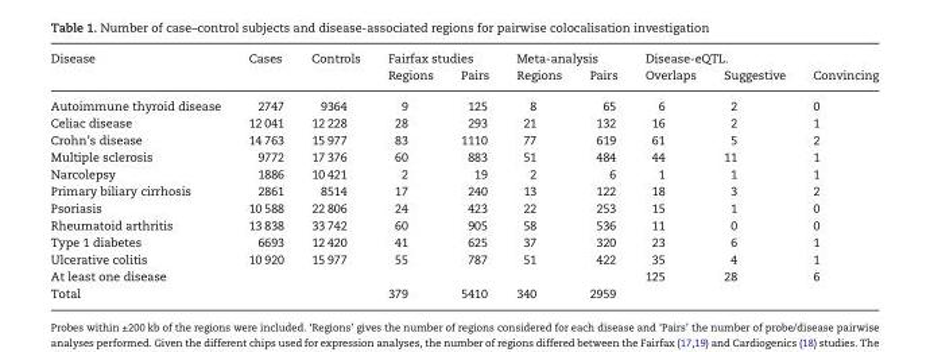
<table><thead><tr><td rowspan="2">Disease</td><td rowspan="2">Cases</td><td rowspan="2">Controls</td><td colspan="2">Fairfax studies</td><td colspan="2">Meta-analysis</td><td colspan="3">Disease-eQTL.</td></tr><tr><td>Regions</td><td>Pairs</td><td>Regions</td><td>Pairs</td><td>Overlaps</td><td>Suggestive</td><td>Convincing</td></tr></thead><tbody><tr><td>Autoimmune thyroid disease</td><td>2747</td><td>9364</td><td>9</td><td>125</td><td>8</td><td>65</td><td>6</td><td>2</td><td>0</td></tr><tr><td>Celiac disease</td><td>12 041</td><td>12 228</td><td>28</td><td>293</td><td>21</td><td>132</td><td>16</td><td>2</td><td>1</td></tr><tr><td>Crohn’s disease</td><td>14 763</td><td>15 977</td><td>83</td><td>1110</td><td>77</td><td>619</td><td>61</td><td>5</td><td>2</td></tr><tr><td>Multiple sclerosis</td><td>9772</td><td>17 376</td><td>60</td><td>883</td><td>51</td><td>484</td><td>44</td><td>11</td><td>1</td></tr><tr><td>Narcolepsy</td><td>1886</td><td>10 421</td><td>2</td><td>19</td><td>2</td><td>6</td><td>1</td><td>1</td><td>1</td></tr><tr><td>Primary biliary cirrhosis</td><td>2861</td><td>8514</td><td>17</td><td>240</td><td>13</td><td>122</td><td>18</td><td>3</td><td>2</td></tr><tr><td>Psoriasis</td><td>10 588</td><td>22 806</td><td>24</td><td>423</td><td>22</td><td>253</td><td>15</td><td>1</td><td>0</td></tr><tr><td>Rheumatoid arthritis</td><td>13 838</td><td>33 742</td><td>60</td><td>905</td><td>58</td><td>536</td><td>11</td><td>0</td><td>0</td></tr><tr><td>Type 1 diabetes</td><td>6693</td><td>12 420</td><td>41</td><td>625</td><td>37</td><td>320</td><td>23</td><td>6</td><td>1</td></tr><tr><td>Ulcerative colitis</td><td>10 920</td><td>15 977</td><td>55</td><td>787</td><td>51</td><td>422</td><td>35</td><td>4</td><td>1</td></tr><tr><td>At least one disease</td><td></td><td></td><td></td><td></td><td></td><td></td><td>125</td><td>28</td><td>6</td></tr><tr><td>Total</td><td></td><td></td><td>379</td><td>5410</td><td>340</td><td>2959</td><td></td><td></td><td></td></tr></tbody></table>